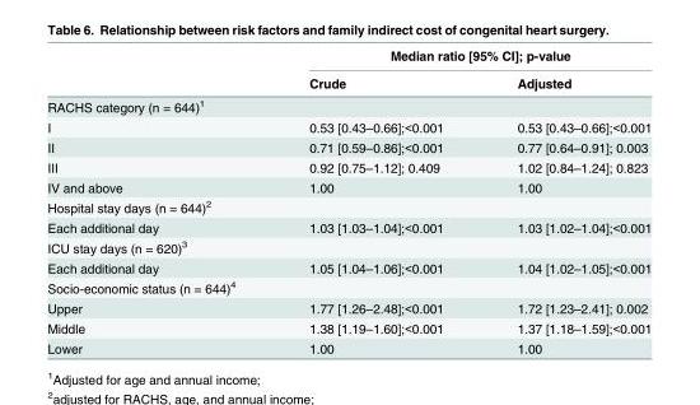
<table><thead><tr><td rowspan="2"></td><td colspan="2">Median ratio [95% CI]; p-value</td></tr><tr><td>Crude</td><td>Adjusted</td></tr></thead><tbody><tr><td colspan="3">RACHS category (n = 644)<sup>1</sup></td></tr><tr><td>I</td><td>0.53 [0.43–0.66];&lt;0.001</td><td>0.53 [0.43–0.66];&lt;0.001</td></tr><tr><td>II</td><td>0.71 [0.59–0.86];&lt;0.001</td><td>0.77 [0.64–0.91]; 0.003</td></tr><tr><td>III</td><td>0.92 [0.75–1.12]; 0.409</td><td>1.02 [0.84–1.24]; 0.823</td></tr><tr><td>IV and above</td><td>1.00</td><td>1.00</td></tr><tr><td colspan="3">Hospital stay days (n = 644)<sup>2</sup></td></tr><tr><td>Each additional day</td><td>1.03 [1.03–1.04];&lt;0.001</td><td>1.03 [1.02–1.04];&lt;0.001</td></tr><tr><td colspan="3">ICU stay days (n = 620)<sup>3</sup></td></tr><tr><td>Each additional day</td><td>1.05 [1.04–1.06];&lt;0.001</td><td>1.04 [1.02–1.05];&lt;0.001</td></tr><tr><td colspan="3">Socio-economic status (n = 644)<sup>4</sup></td></tr><tr><td>Upper</td><td>1.77 [1.26–2.48];&lt;0.001</td><td>1.72 [1.23–2.41]; 0.002</td></tr><tr><td>Middle</td><td>1.38 [1.19–1.60];&lt;0.001</td><td>1.37 [1.18–1.59];&lt;0.001</td></tr><tr><td>Lower</td><td>1.00</td><td>1.00</td></tr></tbody></table>